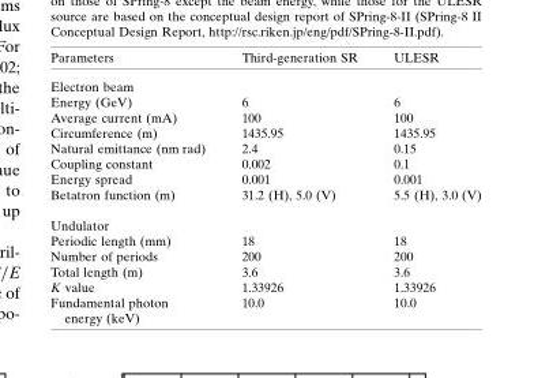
<table><thead><tr><td>Parameters</td><td>Third-generation SR</td><td>ULESR</td></tr></thead><tbody><tr><td colspan="3">Electron beam</td></tr><tr><td>Energy (GeV)</td><td>6</td><td>6</td></tr><tr><td>Average current (mA)</td><td>100</td><td>100</td></tr><tr><td>Circumference (m)</td><td>1435.95</td><td>1435.95</td></tr><tr><td>Natural emittance (nm rad)</td><td>2.4</td><td>0.15</td></tr><tr><td>Coupling constant</td><td>0.002</td><td>0.1</td></tr><tr><td>Energy spread</td><td>0.001</td><td>0.001</td></tr><tr><td>Betatron function (m)</td><td>31.2 (H), 5.0 (V)</td><td>5.5 (H), 3.0 (V)</td></tr><tr><td colspan="3">Undulator</td></tr><tr><td>Periodic length (mm)</td><td>18</td><td>18</td></tr><tr><td>Number of periods</td><td>200</td><td>200</td></tr><tr><td>Total length (m)</td><td>3.6</td><td>3.6</td></tr><tr><td>K value</td><td>1.33926</td><td>1.33926</td></tr><tr><td>Fundamental photon energy (keV)</td><td>10.0</td><td>10.0</td></tr></tbody></table>